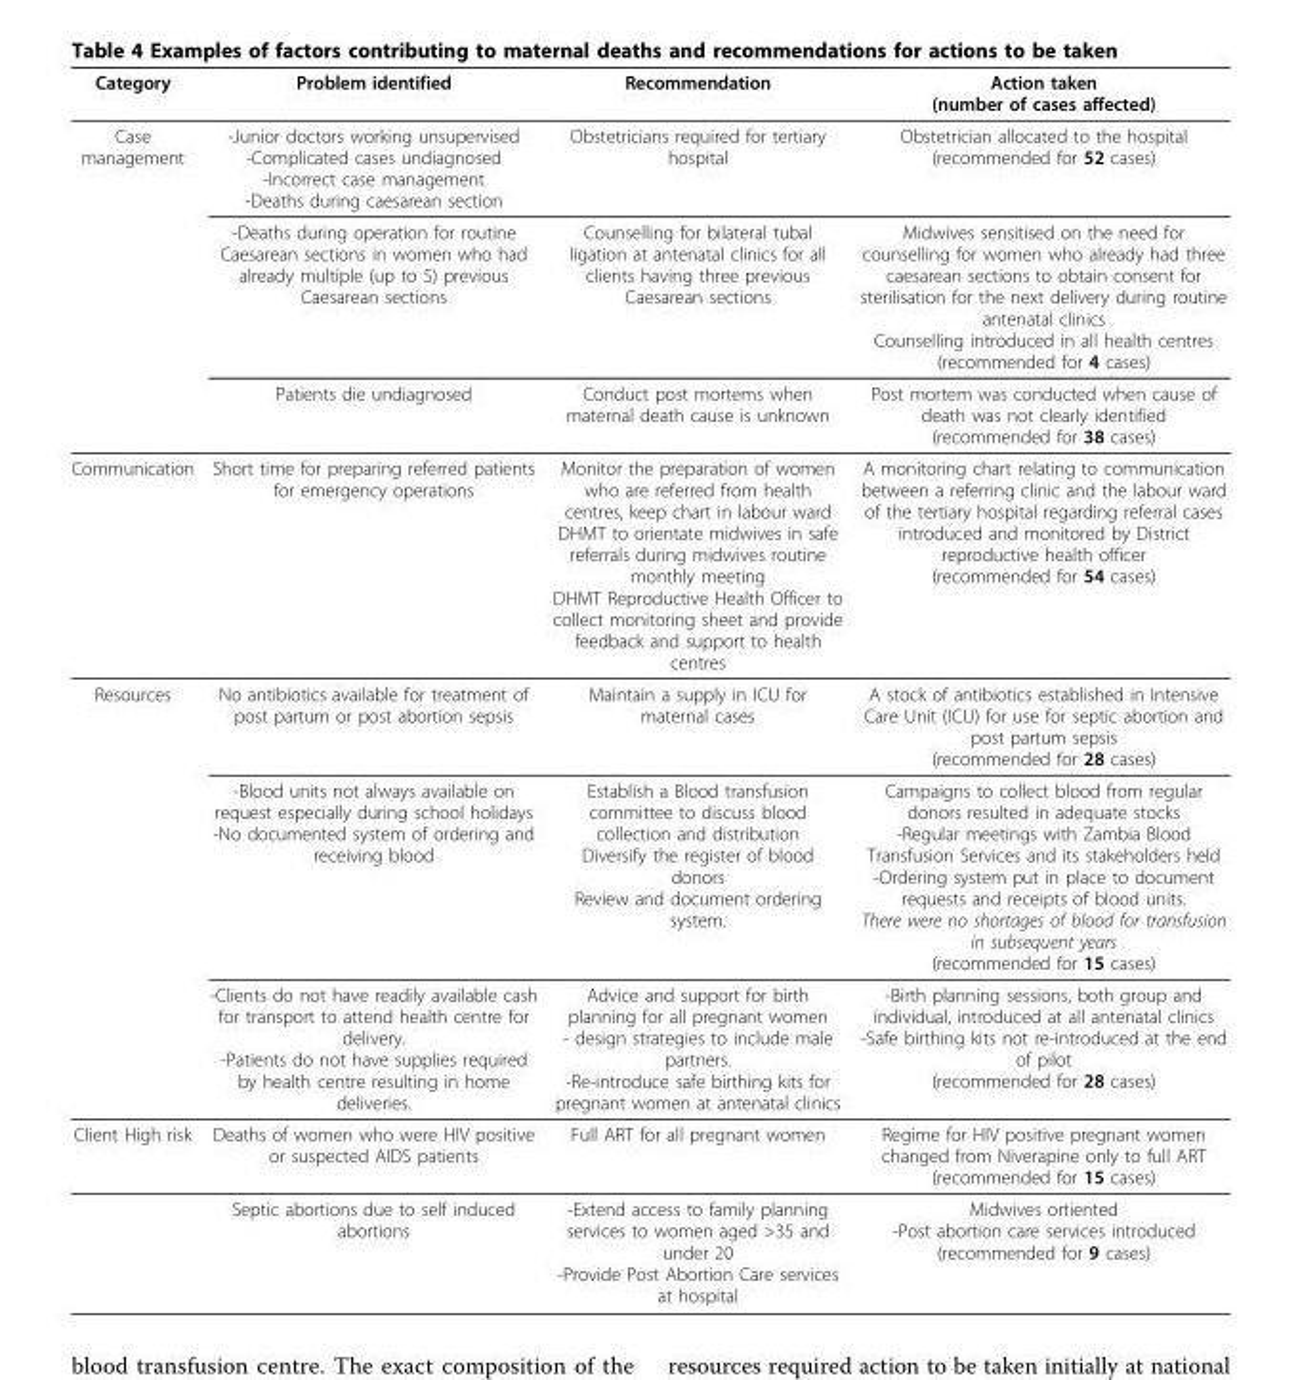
<table><thead><tr><td>Category</td><td>Problem identified</td><td>Recommendation</td><td>Action taken (number of cases affected)</td></tr></thead><tbody><tr><td rowspan="3">Case management</td><td>-Junior doctors working unsupervised -Complicated cases undiagnosed -Incorrect case management -Deaths during caesarean section</td><td>Obstetricians required for tertiary hospital</td><td>Obstetrician allocated to the hospital (recommended for 52 cases)</td></tr><tr><td>-Deaths during operation for routine Caesarean sections in women who had already multiple (up to 5) previous Caesarean sections</td><td>Counselling for bilateral tubal ligation at antenatal clinics for all clients having three previous Caesarean sections</td><td>Midwives sensitised on the need for counselling for women who already had three caesarean sections to obtain consent for sterilisation for the next delivery during routine antenatal clinics Counselling introduced in all health centres (recommended for 4 cases)</td></tr><tr><td>Patients die undiagnosed</td><td>Conduct post mortems when maternal death cause is unknown</td><td>Post mortem was conducted when cause of death was not clearly identified (recommended for 38 cases)</td></tr><tr><td>Communication</td><td>Short time for preparing referred patients for emergency operations</td><td>Monitor the preparation of women who are referred from health centres, keep chart in labour ward DHMT to orientate midwives in safe referrals during midwives routine monthly meeting DHMT Reproductive Health Officer to collect monitoring sheet and provide feedback and support to health centres</td><td>A monitoring chart relating to communication between a referring clinic and the labour ward of the tertiary hospital regarding referral cases introduced and monitored by District reproductive health officer (recommended for 54 cases)</td></tr><tr><td rowspan="3">Resources</td><td>No antibiotics available for treatment of post partum or post abortion sepsis</td><td>Maintain a supply in ICU for maternal cases</td><td>A stock of antibiotics established in Intensive Care Unit (ICU) for use for septic abortion and post partum sepsis (recommended for 28 cases)</td></tr><tr><td>-Blood units not always available on request especially during school holidays -No documented system of ordering and receiving blood</td><td>Establish a Blood transfusion committee to discuss blood collection and distribution Diversify the register of blood donors Review and document ordering system.</td><td>Campaigns to collect blood from regular donors resulted in adequate stocks -Regular meetings with Zambia Blood Transfusion Services and its stakeholders held -Ordering system put in place to document requests and receipts of blood units. There were no shortages of blood for transfusion in subsequent years (recommended for 15 cases)</td></tr><tr><td>-Clients do not have readily available cash for transport to attend health centre for delivery. -Patients do not have supplies required by health centre resulting in home deliveries.</td><td>Advice and support for birth planning for all pregnant women - design strategies to include male partners. -Re-introduce safe birthing kits for pregnant women at antenatal clinics</td><td>-Birth planning sessions, both group and individual, introduced at all antenatal clinics -Safe birthing kits not re-introduced at the end of pilot (recommended for 28 cases)</td></tr><tr><td rowspan="2">Client High risk</td><td>Deaths of women who were HIV positive or suspected AIDS patients</td><td>Full ART for all pregnant women</td><td>Regime for HIV positive pregnant women changed from Niverapine only to full ART (recommended for 15 cases)</td></tr><tr><td>Septic abortions due to self induced abortions</td><td>-Extend access to family planning services to women aged &gt;35 and under 20 -Provide Post Abortion Care services at hospital</td><td>Midwives ortiented -Post abortion care services introduced (recommended for 9 cases)</td></tr></tbody></table>